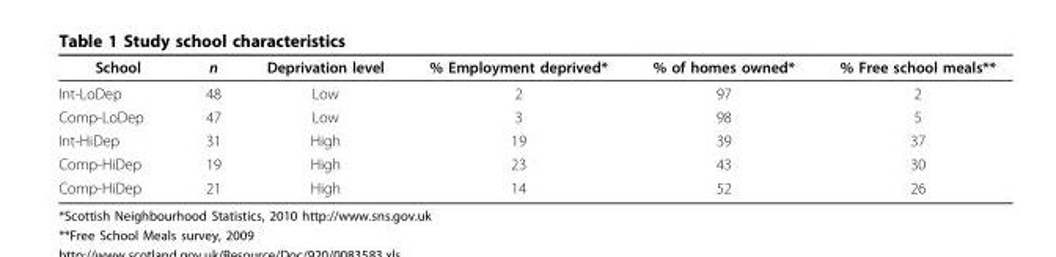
<table><thead><tr><td>School</td><td>n</td><td>Deprivation level</td><td>% Employment deprived*</td><td>% of homes owned*</td><td>% Free school meals**</td></tr></thead><tbody><tr><td>Int-LoDep</td><td>48</td><td>Low</td><td>2</td><td>97</td><td>2</td></tr><tr><td>Comp-LoDep</td><td>47</td><td>Low</td><td>3</td><td>98</td><td>5</td></tr><tr><td>Int-HiDep</td><td>31</td><td>High</td><td>19</td><td>39</td><td>37</td></tr><tr><td>Comp-HiDep</td><td>19</td><td>High</td><td>23</td><td>43</td><td>30</td></tr><tr><td>Comp-HiDep</td><td>21</td><td>High</td><td>14</td><td>52</td><td>26</td></tr></tbody></table>